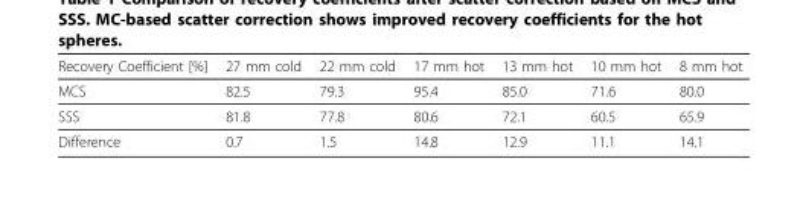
<table><thead><tr><td>Recovery Coefficient [%]</td><td>27 mm cold</td><td>22 mm cold</td><td>17 mm hot</td><td>13 mm hot</td><td>10 mm hot</td><td>8 mm hot</td></tr></thead><tbody><tr><td>MCS</td><td>82.5</td><td>79.3</td><td>95.4</td><td>85.0</td><td>71.6</td><td>80.0</td></tr><tr><td>SSS</td><td>81.8</td><td>77.8</td><td>80.6</td><td>72.1</td><td>60.5</td><td>65.9</td></tr><tr><td>Difference</td><td>0.7</td><td>1.5</td><td>14.8</td><td>12.9</td><td>11.1</td><td>14.1</td></tr></tbody></table>